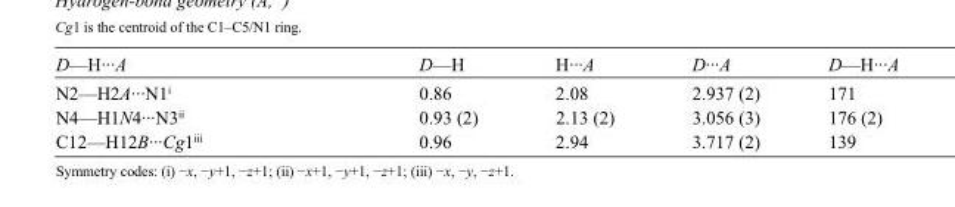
<table><tbody><tr><td>D—H···A</td><td>D—H</td><td>H···A</td><td>D···A</td><td>D—H···A</td></tr><tr><td>N2—H2A···N1<sup>i</sup></td><td>0.86</td><td>2.08</td><td>2.937 (2)</td><td>171</td></tr><tr><td>N4—H1N4···N3<sup>ii</sup></td><td>0.93 (2)</td><td>2.13 (2)</td><td>3.056 (3)</td><td>176 (2)</td></tr><tr><td>C12—H12B···Cg1<sup>iii</sup></td><td>0.96</td><td>2.94</td><td>3.717 (2)</td><td>139</td></tr></tbody></table>